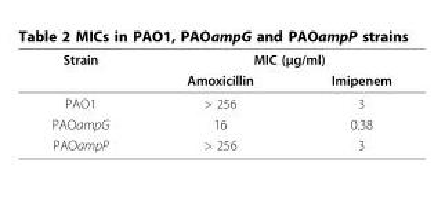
<table><thead><tr><td rowspan="2">Strain</td><td colspan="2">MIC (μg/ml)</td></tr><tr><td>Amoxicillin</td><td>Imipenem</td></tr></thead><tbody><tr><td>PAO1</td><td>&gt; 256</td><td>3</td></tr><tr><td>PAOampG</td><td>16</td><td>0.38</td></tr><tr><td>PAOampP</td><td>&gt; 256</td><td>3</td></tr></tbody></table>